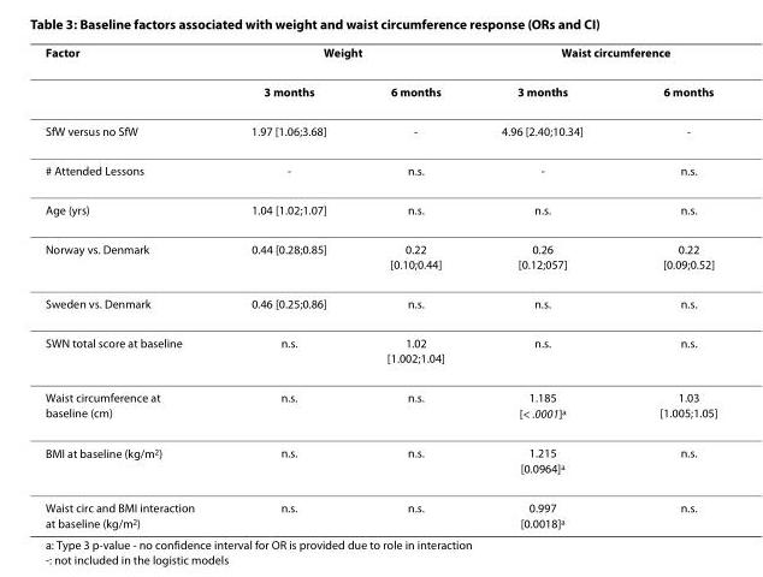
<table><thead><tr><td rowspan="2">Factor</td><td colspan="2">Weight</td><td colspan="2">Waist circumference</td></tr><tr><td>3 months</td><td>6 months</td><td>3 months</td><td>6 months</td></tr></thead><tbody><tr><td>SfW versus no SfW</td><td>1.97 [1.06;3.68]</td><td>-</td><td>4.96 [2.40;10.34]</td><td>-</td></tr><tr><td># Attended Lessons</td><td>-</td><td>n.s.</td><td>-</td><td>n.s.</td></tr><tr><td>Age (yrs)</td><td>1.04 [1.02;1.07]</td><td>n.s.</td><td>n.s.</td><td>n.s.</td></tr><tr><td>Norway vs. Denmark</td><td>0.44 [0.28;0.85]</td><td>0.22 [0.10;0.44]</td><td>0.26 [0.12;057]</td><td>0.22 [0.09;0.52]</td></tr><tr><td>Sweden vs. Denmark</td><td>0.46 [0.25;0.86]</td><td>n.s.</td><td>n.s.</td><td>n.s.</td></tr><tr><td>SWN total score at baseline</td><td>n.s.</td><td>1.02 [1.002;1.04]</td><td>n.s.</td><td>n.s.</td></tr><tr><td>Waist circumference at baseline (cm)</td><td>n.s.</td><td>n.s.</td><td>1.185 [&lt; .0001]<sup>a</sup></td><td>1.03 [1.005;1.05]</td></tr><tr><td>BMI at baseline (kg/m<sup>2</sup>)</td><td>n.s.</td><td>n.s.</td><td>1.215 [0.0964]<sup>a</sup></td><td>n.s.</td></tr><tr><td>Waist circ and BMI interaction at baseline (kg/m<sup>2</sup>)</td><td>n.s.</td><td>n.s.</td><td>0.997 [0.0018]<sup>a</sup></td><td>n.s.</td></tr></tbody></table>